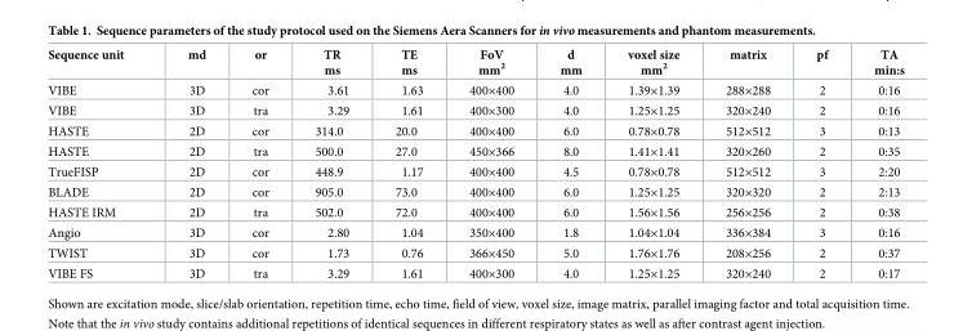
<table><thead><tr><td>Sequence unit</td><td>md</td><td>or</td><td>TR ms</td><td>TE ms</td><td>FoV mm<sup>2</sup></td><td>d mm</td><td>voxel size mm<sup>2</sup></td><td>matrix</td><td>pf</td><td>TA min:s</td></tr></thead><tbody><tr><td>VIBE</td><td>3D</td><td>cor</td><td>3.61</td><td>1.63</td><td>400×400</td><td>4.0</td><td>1.39×1.39</td><td>288×288</td><td>2</td><td>0:16</td></tr><tr><td>VIBE</td><td>3D</td><td>tra</td><td>3.29</td><td>1.61</td><td>400×300</td><td>4.0</td><td>1.25×1.25</td><td>320×240</td><td>2</td><td>0:16</td></tr><tr><td>HASTE</td><td>2D</td><td>cor</td><td>314.0</td><td>20.0</td><td>400×400</td><td>6.0</td><td>0.78×0.78</td><td>512×512</td><td>3</td><td>0:13</td></tr><tr><td>HASTE</td><td>2D</td><td>tra</td><td>500.0</td><td>27.0</td><td>450×366</td><td>8.0</td><td>1.41×1.41</td><td>320×260</td><td>2</td><td>0:35</td></tr><tr><td>TrueFISP</td><td>2D</td><td>cor</td><td>448.9</td><td>1.17</td><td>400×400</td><td>4.5</td><td>0.78×0.78</td><td>512×512</td><td>3</td><td>2:20</td></tr><tr><td>BLADE</td><td>2D</td><td>cor</td><td>905.0</td><td>73.0</td><td>400×400</td><td>6.0</td><td>1.25×1.25</td><td>320×320</td><td>2</td><td>2:13</td></tr><tr><td>HASTE IRM</td><td>2D</td><td>tra</td><td>502.0</td><td>72.0</td><td>400×400</td><td>6.0</td><td>1.56×1.56</td><td>256×256</td><td>2</td><td>0:38</td></tr><tr><td>Angio</td><td>3D</td><td>cor</td><td>2.80</td><td>1.04</td><td>350×400</td><td>1.8</td><td>1.04×1.04</td><td>336×384</td><td>3</td><td>0:16</td></tr><tr><td>TWIST</td><td>3D</td><td>cor</td><td>1.73</td><td>0.76</td><td>366×450</td><td>5.0</td><td>1.76×1.76</td><td>208×256</td><td>2</td><td>0:37</td></tr><tr><td>VIBE FS</td><td>3D</td><td>tra</td><td>3.29</td><td>1.61</td><td>400×300</td><td>4.0</td><td>1.25×1.25</td><td>320×240</td><td>2</td><td>0:17</td></tr></tbody></table>